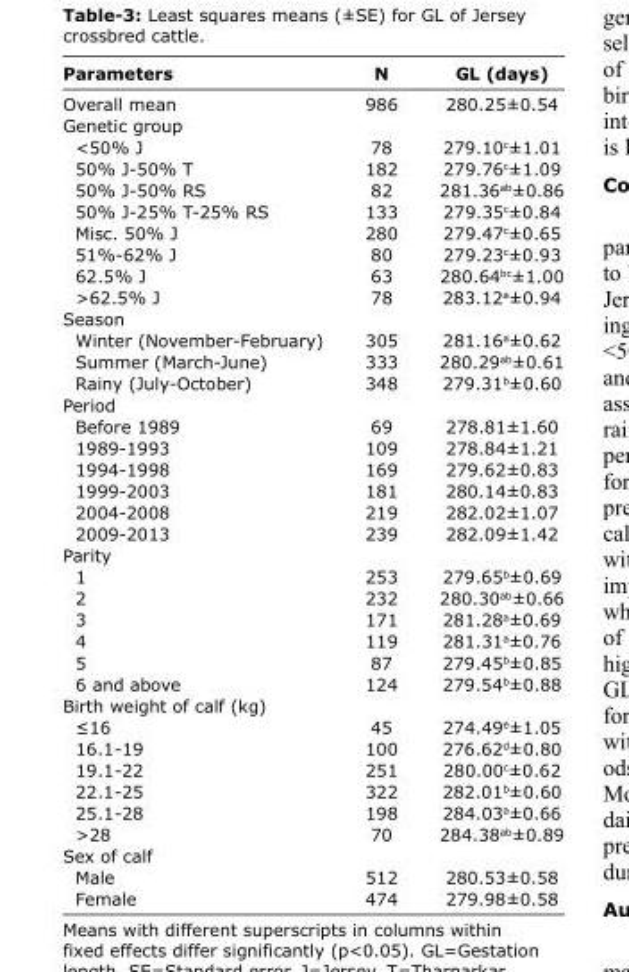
<table><thead><tr><td>Parameters</td><td>N</td><td>GL (days)</td></tr></thead><tbody><tr><td>Overall mean</td><td>986</td><td>280.25±0.54</td></tr><tr><td colspan="3">Genetic group</td></tr><tr><td>&lt;50% J</td><td>78</td><td>279.10<sup>c</sup>±1.01</td></tr><tr><td>50% J-50% T</td><td>182</td><td>279.76<sup>c</sup>±1.09</td></tr><tr><td>50% J-50% RS</td><td>82</td><td>281.36<sup>ab</sup>±0.86</td></tr><tr><td>50% J-25% T-25% RS</td><td>133</td><td>279.35<sup>c</sup>±0.84</td></tr><tr><td>Misc. 50% J</td><td>280</td><td>279.47<sup>c</sup>±0.65</td></tr><tr><td>51%-62% J</td><td>80</td><td>279.23<sup>c</sup>±0.93</td></tr><tr><td>62.5% J</td><td>63</td><td>280.64<sup>bc</sup>±1.00</td></tr><tr><td>&gt;62.5% J</td><td>78</td><td>283.12<sup>a</sup>±0.94</td></tr><tr><td colspan="3">Season</td></tr><tr><td>Winter (November-February)</td><td>305</td><td>281.16<sup>a</sup>±0.62</td></tr><tr><td>Summer (March-June)</td><td>333</td><td>280.29<sup>ab</sup>±0.61</td></tr><tr><td>Rainy (July-October)</td><td>348</td><td>279.31<sup>b</sup>±0.60</td></tr><tr><td colspan="3">Period</td></tr><tr><td>Before 1989</td><td>69</td><td>278.81±1.60</td></tr><tr><td>1989-1993</td><td>109</td><td>278.84±1.21</td></tr><tr><td>1994-1998</td><td>169</td><td>279.62±0.83</td></tr><tr><td>1999-2003</td><td>181</td><td>280.14±0.83</td></tr><tr><td>2004-2008</td><td>219</td><td>282.02±1.07</td></tr><tr><td>2009-2013</td><td>239</td><td>282.09±1.42</td></tr><tr><td colspan="3">Parity</td></tr><tr><td>1</td><td>253</td><td>279.65<sup>b</sup>±0.69</td></tr><tr><td>2</td><td>232</td><td>280.30<sup>ab</sup>±0.66</td></tr><tr><td>3</td><td>171</td><td>281.28<sup>a</sup>±0.69</td></tr><tr><td>4</td><td>119</td><td>281.31<sup>a</sup>±0.76</td></tr><tr><td>5</td><td>87</td><td>279.45<sup>b</sup>±0.85</td></tr><tr><td>6 and above</td><td>124</td><td>279.54<sup>b</sup>±0.88</td></tr><tr><td colspan="3">Birth weight of calf (kg)</td></tr><tr><td>≤16</td><td>45</td><td>274.49<sup>e</sup>±1.05</td></tr><tr><td>16.1-19</td><td>100</td><td>276.62<sup>d</sup>±0.80</td></tr><tr><td>19.1-22</td><td>251</td><td>280.00<sup>c</sup>±0.62</td></tr><tr><td>22.1-25</td><td>322</td><td>282.01<sup>b</sup>±0.60</td></tr><tr><td>25.1-28</td><td>198</td><td>284.03<sup>a</sup>±0.66</td></tr><tr><td>&gt;28</td><td>70</td><td>284.38<sup>ab</sup>±0.89</td></tr><tr><td colspan="3">Sex of calf</td></tr><tr><td>Male</td><td>512</td><td>280.53±0.58</td></tr><tr><td>Female</td><td>474</td><td>279.98±0.58</td></tr></tbody></table>